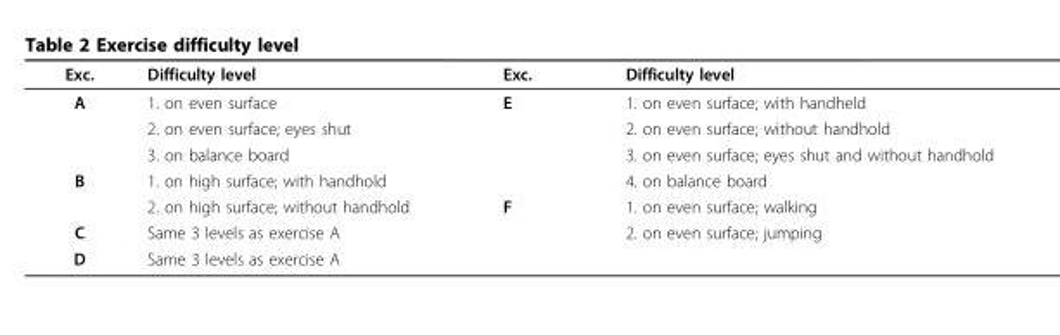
<table><thead><tr><td>Exc.</td><td>Difficulty level</td><td>Exc.</td><td>Difficulty level</td></tr></thead><tbody><tr><td rowspan="3">A</td><td>1. on even surface</td><td>E</td><td>1. on even surface; with handheld</td></tr><tr><td>2. on even surface; eyes shut</td><td></td><td>2. on even surface; without handhold</td></tr><tr><td>3. on balance board</td><td></td><td>3. on even surface; eyes shut and without handhold</td></tr><tr><td rowspan="2">B</td><td>1. on high surface; with handhold</td><td></td><td>4. on balance board</td></tr><tr><td>2. on high surface; without handhold</td><td>F</td><td>1. on even surface; walking</td></tr><tr><td>C</td><td>Same 3 levels as exercise A</td><td></td><td>2. on even surface; jumping</td></tr><tr><td>D</td><td>Same 3 levels as exercise A</td><td></td><td></td></tr></tbody></table>